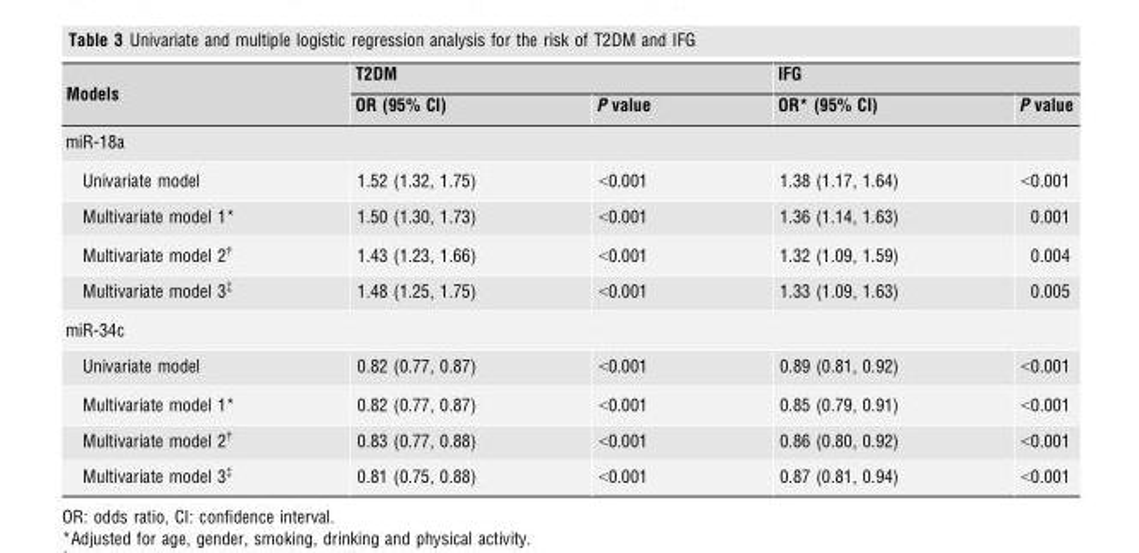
<table><thead><tr><td rowspan="2">Models</td><td colspan="2">T2DM</td><td colspan="2">IFG</td></tr><tr><td>OR (95% CI)</td><td>P value</td><td>OR* (95% CI)</td><td>P value</td></tr></thead><tbody><tr><td colspan="5">miR-18a</td></tr><tr><td>Univariate model</td><td>1.52 (1.32, 1.75)</td><td>&lt;0.001</td><td>1.38 (1.17, 1.64)</td><td>&lt;0.001</td></tr><tr><td>Multivariate model 1*</td><td>1.50 (1.30, 1.73)</td><td>&lt;0.001</td><td>1.36 (1.14, 1.63)</td><td>0.001</td></tr><tr><td>Multivariate model 2†</td><td>1.43 (1.23, 1.66)</td><td>&lt;0.001</td><td>1.32 (1.09, 1.59)</td><td>0.004</td></tr><tr><td>Multivariate model 3‡</td><td>1.48 (1.25, 1.75)</td><td>&lt;0.001</td><td>1.33 (1.09, 1.63)</td><td>0.005</td></tr><tr><td colspan="5">miR-34c</td></tr><tr><td>Univariate model</td><td>0.82 (0.77, 0.87)</td><td>&lt;0.001</td><td>0.89 (0.81, 0.92)</td><td>&lt;0.001</td></tr><tr><td>Multivariate model 1*</td><td>0.82 (0.77, 0.87)</td><td>&lt;0.001</td><td>0.85 (0.79, 0.91)</td><td>&lt;0.001</td></tr><tr><td>Multivariate model 2†</td><td>0.83 (0.77, 0.88)</td><td>&lt;0.001</td><td>0.86 (0.80, 0.92)</td><td>&lt;0.001</td></tr><tr><td>Multivariate model 3‡</td><td>0.81 (0.75, 0.88)</td><td>&lt;0.001</td><td>0.87 (0.81, 0.94)</td><td>&lt;0.001</td></tr></tbody></table>